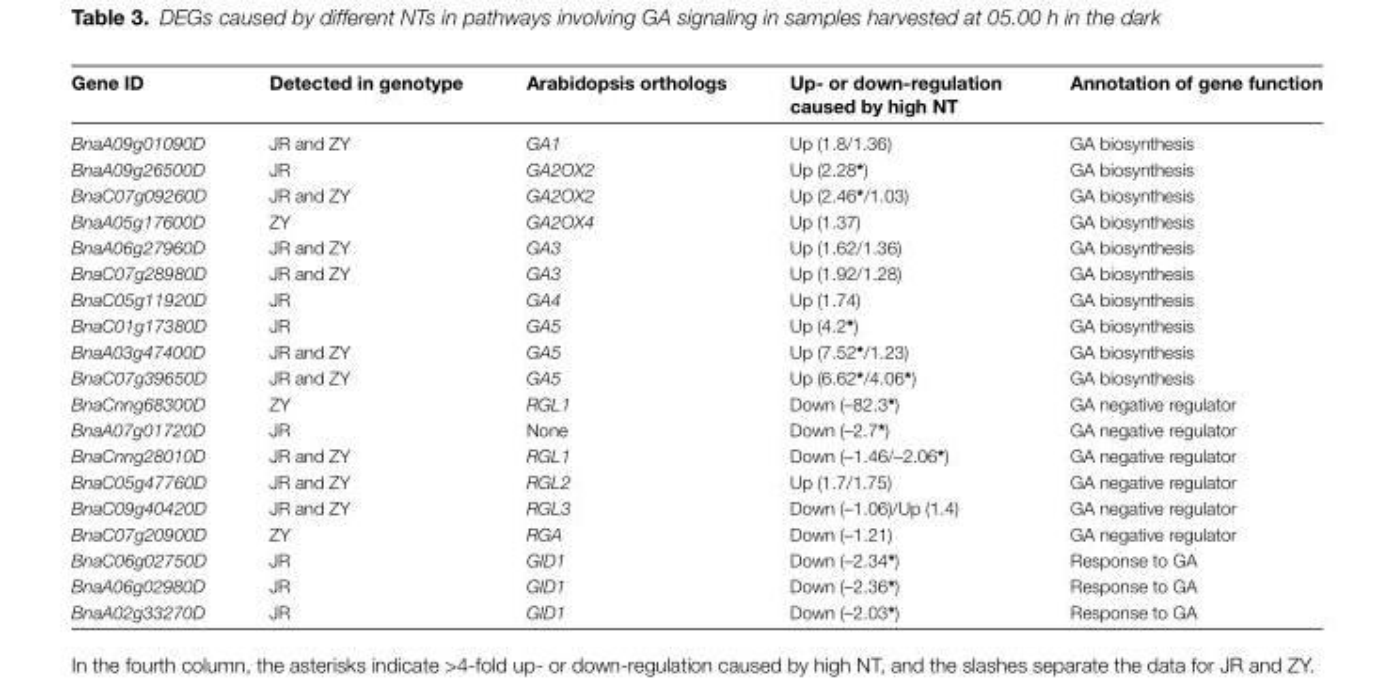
<table><thead><tr><td>Gene ID</td><td>Detected in genotype</td><td>Arabidopsis orthologs</td><td>Up- or down-regulation caused by high NT</td><td>Annotation of gene function</td></tr></thead><tbody><tr><td>BnaA09g01090D</td><td>JR and ZY</td><td>GA1</td><td>Up (1.8/1.36)</td><td>GA biosynthesis</td></tr><tr><td>BnaA09g26500D</td><td>JR</td><td>GA2OX2</td><td>Up (2.28*)</td><td>GA biosynthesis</td></tr><tr><td>BnaC07g09260D</td><td>JR and ZY</td><td>GA2OX2</td><td>Up (2.46*/1.03)</td><td>GA biosynthesis</td></tr><tr><td>BnaA05g17600D</td><td>ZY</td><td>GA2OX4</td><td>Up (1.37)</td><td>GA biosynthesis</td></tr><tr><td>BnaA06g27960D</td><td>JR and ZY</td><td>GA3</td><td>Up (1.62/1.36)</td><td>GA biosynthesis</td></tr><tr><td>BnaC07g28980D</td><td>JR and ZY</td><td>GA3</td><td>Up (1.92/1.28)</td><td>GA biosynthesis</td></tr><tr><td>BnaC05g11920D</td><td>JR</td><td>GA4</td><td>Up (1.74)</td><td>GA biosynthesis</td></tr><tr><td>BnaC01g17380D</td><td>JR</td><td>GA5</td><td>Up (4.2*)</td><td>GA biosynthesis</td></tr><tr><td>BnaA03g47400D</td><td>JR and ZY</td><td>GA5</td><td>Up (7.52*/1.23)</td><td>GA biosynthesis</td></tr><tr><td>BnaC07g39650D</td><td>JR and ZY</td><td>GA5</td><td>Up (6.62*/4.06*)</td><td>GA biosynthesis</td></tr><tr><td>BnaCnng68300D</td><td>ZY</td><td>RGL1</td><td>Down (–82.3*)</td><td>GA negative regulator</td></tr><tr><td>BnaA07g01720D</td><td>JR</td><td>None</td><td>Down (–2.7*)</td><td>GA negative regulator</td></tr><tr><td>BnaCnng28010D</td><td>JR and ZY</td><td>RGL1</td><td>Down (–1.46/–2.06*)</td><td>GA negative regulator</td></tr><tr><td>BnaC05g47760D</td><td>JR and ZY</td><td>RGL2</td><td>Up (1.7/1.75)</td><td>GA negative regulator</td></tr><tr><td>BnaC09g40420D</td><td>JR and ZY</td><td>RGL3</td><td>Down (–1.06)/Up (1.4)</td><td>GA negative regulator</td></tr><tr><td>BnaC07g20900D</td><td>ZY</td><td>RGA</td><td>Down (–1.21)</td><td>GA negative regulator</td></tr><tr><td>BnaC06g02750D</td><td>JR</td><td>GID1</td><td>Down (–2.34*)</td><td>Response to GA</td></tr><tr><td>BnaA06g02980D</td><td>JR</td><td>GID1</td><td>Down (–2.36*)</td><td>Response to GA</td></tr><tr><td>BnaA02g33270D</td><td>JR</td><td>GID1</td><td>Down (–2.03*)</td><td>Response to GA</td></tr></tbody></table>